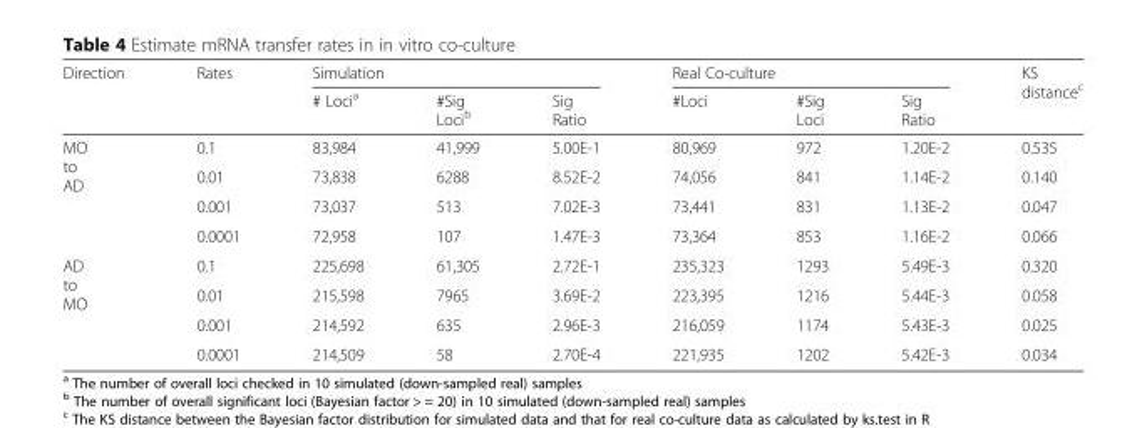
<table><thead><tr><td rowspan="2">Direction</td><td rowspan="2">Rates</td><td colspan="3">Simulation</td><td colspan="3">Real Co-culture</td><td rowspan="2">KS distance<sup>c</sup></td></tr><tr><td># Loci<sup>a</sup></td><td>#Sig Loci<sup>b</sup></td><td>Sig Ratio</td><td>#Loci</td><td>#Sig Loci</td><td>Sig Ratio</td></tr></thead><tbody><tr><td rowspan="4">MO to AD</td><td>0.1</td><td>83,984</td><td>41,999</td><td>5.00E-1</td><td>80,969</td><td>972</td><td>1.20E-2</td><td>0.535</td></tr><tr><td>0.01</td><td>73,838</td><td>6288</td><td>8.52E-2</td><td>74,056</td><td>841</td><td>1.14E-2</td><td>0.140</td></tr><tr><td>0.001</td><td>73,037</td><td>513</td><td>7.02E-3</td><td>73,441</td><td>831</td><td>1.13E-2</td><td>0.047</td></tr><tr><td>0.0001</td><td>72,958</td><td>107</td><td>1.47E-3</td><td>73,364</td><td>853</td><td>1.16E-2</td><td>0.066</td></tr><tr><td rowspan="4">AD to MO</td><td>0.1</td><td>225,698</td><td>61,305</td><td>2.72E-1</td><td>235,323</td><td>1293</td><td>5.49E-3</td><td>0.320</td></tr><tr><td>0.01</td><td>215,598</td><td>7965</td><td>3.69E-2</td><td>223,395</td><td>1216</td><td>5.44E-3</td><td>0.058</td></tr><tr><td>0.001</td><td>214,592</td><td>635</td><td>2.96E-3</td><td>216,059</td><td>1174</td><td>5.43E-3</td><td>0.025</td></tr><tr><td>0.0001</td><td>214,509</td><td>58</td><td>2.70E-4</td><td>221,935</td><td>1202</td><td>5.42E-3</td><td>0.034</td></tr></tbody></table>